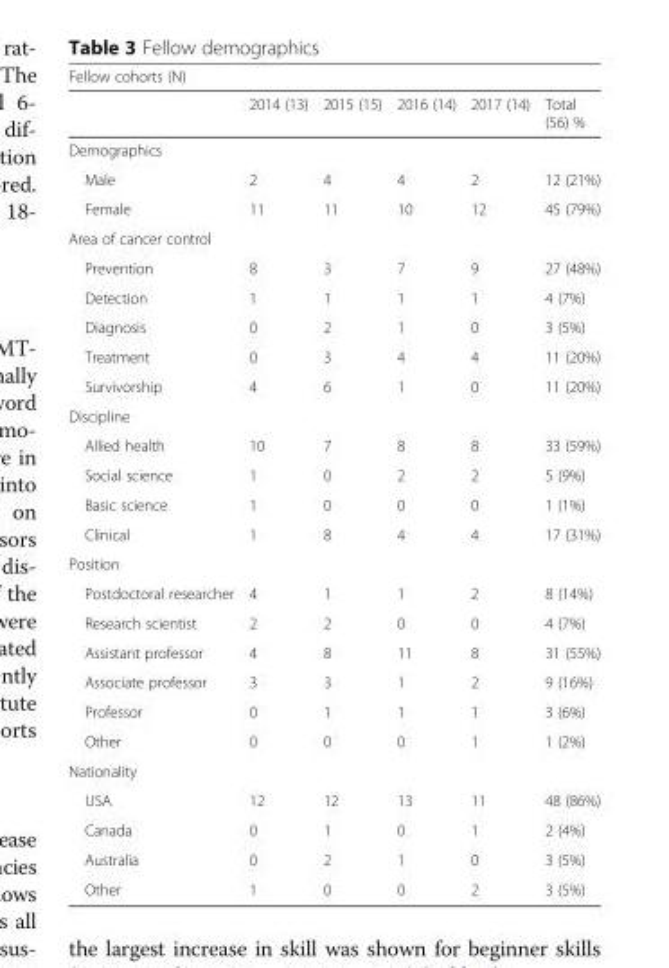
<table><thead><tr><td colspan="6">Fellow cohorts (N)</td></tr><tr><td></td><td>2014 (13)</td><td>2015 (15)</td><td>2016 (14)</td><td>2017 (14)</td><td>Total (56) %</td></tr></thead><tbody><tr><td colspan="6">Demographics</td></tr><tr><td>Male</td><td>2</td><td>4</td><td>4</td><td>2</td><td>12 (21%)</td></tr><tr><td>Female</td><td>11</td><td>11</td><td>10</td><td>12</td><td>45 (79%)</td></tr><tr><td colspan="6">Area of cancer control</td></tr><tr><td>Prevention</td><td>8</td><td>3</td><td>7</td><td>9</td><td>27 (48%)</td></tr><tr><td>Detection</td><td>1</td><td>1</td><td>1</td><td>1</td><td>4 (7%)</td></tr><tr><td>Diagnosis</td><td>0</td><td>2</td><td>1</td><td>0</td><td>3 (5%)</td></tr><tr><td>Treatment</td><td>0</td><td>3</td><td>4</td><td>4</td><td>11 (20%)</td></tr><tr><td>Survivorship</td><td>4</td><td>6</td><td>1</td><td>0</td><td>11 (20%)</td></tr><tr><td colspan="6">Discipline</td></tr><tr><td>Allied health</td><td>10</td><td>7</td><td>8</td><td>8</td><td>33 (59%)</td></tr><tr><td>Social science</td><td>1</td><td>0</td><td>2</td><td>2</td><td>5 (9%)</td></tr><tr><td>Basic science</td><td>1</td><td>0</td><td>0</td><td>0</td><td>1 (1%)</td></tr><tr><td>Clinical</td><td>1</td><td>8</td><td>4</td><td>4</td><td>17 (31%)</td></tr><tr><td colspan="6">Position</td></tr><tr><td>Postdoctoral researcher</td><td>4</td><td>1</td><td>1</td><td>2</td><td>8 (14%)</td></tr><tr><td>Research scientist</td><td>2</td><td>2</td><td>0</td><td>0</td><td>4 (7%)</td></tr><tr><td>Assistant professor</td><td>4</td><td>8</td><td>11</td><td>8</td><td>31 (55%)</td></tr><tr><td>Associate professor</td><td>3</td><td>3</td><td>1</td><td>2</td><td>9 (16%)</td></tr><tr><td>Professor</td><td>0</td><td>1</td><td>1</td><td>1</td><td>3 (6%)</td></tr><tr><td>Other</td><td>0</td><td>0</td><td>0</td><td>1</td><td>1 (2%)</td></tr><tr><td colspan="6">Nationality</td></tr><tr><td>USA</td><td>12</td><td>12</td><td>13</td><td>11</td><td>48 (86%)</td></tr><tr><td>Canada</td><td>0</td><td>1</td><td>0</td><td>1</td><td>2 (4%)</td></tr><tr><td>Australia</td><td>0</td><td>2</td><td>1</td><td>0</td><td>3 (5%)</td></tr><tr><td>Other</td><td>1</td><td>0</td><td>0</td><td>2</td><td>3 (5%)</td></tr></tbody></table>